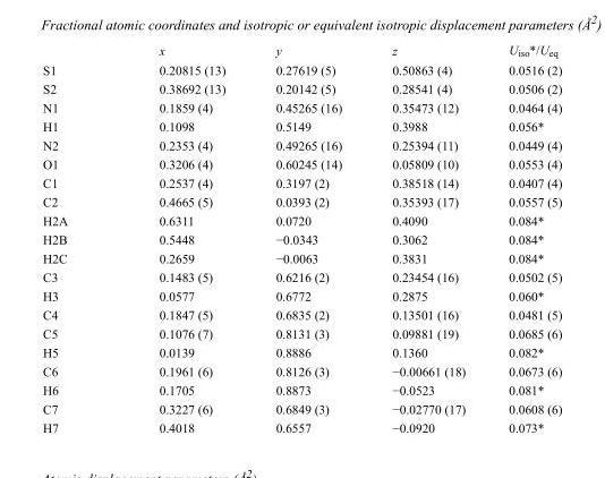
<table><thead><tr><td></td><td>x</td><td>y</td><td>z</td><td>U<sub>iso</sub>*/U<sub>eq</sub></td></tr></thead><tbody><tr><td>S1</td><td>0.20815 (13)</td><td>0.27619 (5)</td><td>0.50863 (4)</td><td>0.0516 (2)</td></tr><tr><td>S2</td><td>0.38692 (13)</td><td>0.20142 (5)</td><td>0.28541 (4)</td><td>0.0506 (2)</td></tr><tr><td>N1</td><td>0.1859 (4)</td><td>0.45265 (16)</td><td>0.35473 (12)</td><td>0.0464 (4)</td></tr><tr><td>H1</td><td>0.1098</td><td>0.5149</td><td>0.3988</td><td>0.056*</td></tr><tr><td>N2</td><td>0.2353 (4)</td><td>0.49265 (16)</td><td>0.25394 (11)</td><td>0.0449 (4)</td></tr><tr><td>O1</td><td>0.3206 (4)</td><td>0.60245 (14)</td><td>0.05809 (10)</td><td>0.0553 (4)</td></tr><tr><td>C1</td><td>0.2537 (4)</td><td>0.3197 (2)</td><td>0.38518 (14)</td><td>0.0407 (4)</td></tr><tr><td>C2</td><td>0.4665 (5)</td><td>0.0393 (2)</td><td>0.35393 (17)</td><td>0.0557 (5)</td></tr><tr><td>H2A</td><td>0.6311</td><td>0.0720</td><td>0.4090</td><td>0.084*</td></tr><tr><td>H2B</td><td>0.5448</td><td>−0.0343</td><td>0.3062</td><td>0.084*</td></tr><tr><td>H2C</td><td>0.2659</td><td>−0.0063</td><td>0.3831</td><td>0.084*</td></tr><tr><td>C3</td><td>0.1483 (5)</td><td>0.6216 (2)</td><td>0.23454 (16)</td><td>0.0502 (5)</td></tr><tr><td>H3</td><td>0.0577</td><td>0.6772</td><td>0.2875</td><td>0.060*</td></tr><tr><td>C4</td><td>0.1847 (5)</td><td>0.6835 (2)</td><td>0.13501 (16)</td><td>0.0481 (5)</td></tr><tr><td>C5</td><td>0.1076 (7)</td><td>0.8131 (3)</td><td>0.09881 (19)</td><td>0.0685 (6)</td></tr><tr><td>H5</td><td>0.0139</td><td>0.8886</td><td>0.1360</td><td>0.082*</td></tr><tr><td>C6</td><td>0.1961 (6)</td><td>0.8126 (3)</td><td>−0.00661 (18)</td><td>0.0673 (6)</td></tr><tr><td>H6</td><td>0.1705</td><td>0.8873</td><td>−0.0523</td><td>0.081*</td></tr><tr><td>C7</td><td>0.3227 (6)</td><td>0.6849 (3)</td><td>−0.02770 (17)</td><td>0.0608 (6)</td></tr><tr><td>H7</td><td>0.4018</td><td>0.6557</td><td>−0.0920</td><td>0.073*</td></tr></tbody></table>